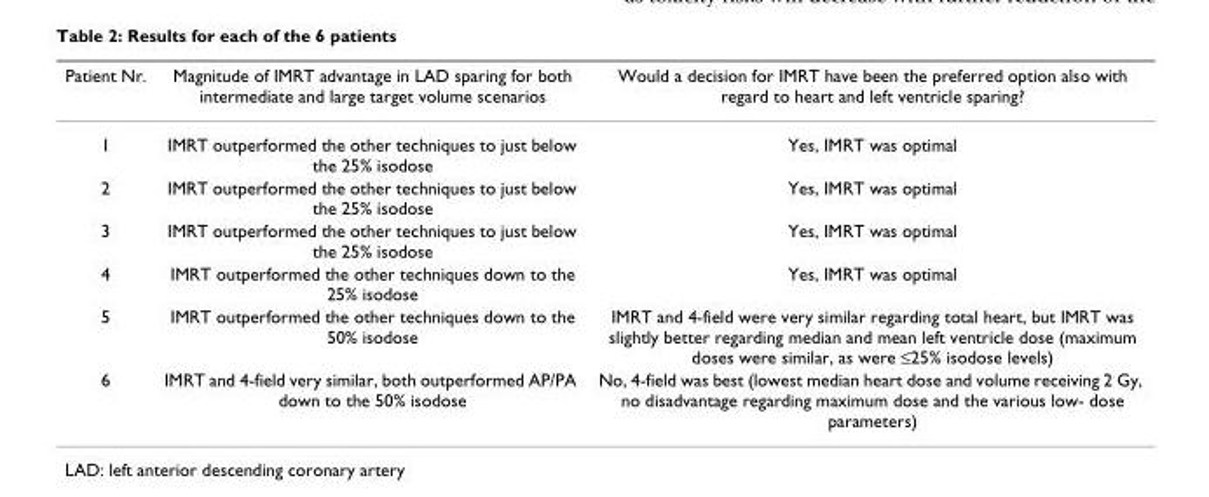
<table><thead><tr><td>Patient Nr.</td><td>Magnitude of IMRT advantage in LAD sparing for both intermediate and large target volume scenarios</td><td>Would a decision for IMRT have been the preferred option also with regard to heart and left ventricle sparing?</td></tr></thead><tbody><tr><td>1</td><td>IMRT outperformed the other techniques to just below the 25% isodose</td><td>Yes, IMRT was optimal</td></tr><tr><td>2</td><td>IMRT outperformed the other techniques to just below the 25% isodose</td><td>Yes, IMRT was optimal</td></tr><tr><td>3</td><td>IMRT outperformed the other techniques to just below the 25% isodose</td><td>Yes, IMRT was optimal</td></tr><tr><td>4</td><td>IMRT outperformed the other techniques down to the 25% isodose</td><td>Yes, IMRT was optimal</td></tr><tr><td>5</td><td>IMRT outperformed the other techniques down to the 50% isodose</td><td>IMRT and 4-field were very similar regarding total heart, but IMRT was slightly better regarding median and mean left ventricle dose (maximum doses were similar, as were ≤25% isodose levels)</td></tr><tr><td>6</td><td>IMRT and 4-field very similar, both outperformed AP/PA down to the 50% isodose</td><td>No, 4-field was best (lowest median heart dose and volume receiving 2 Gy, no disadvantage regarding maximum dose and the various low- dose parameters)</td></tr></tbody></table>